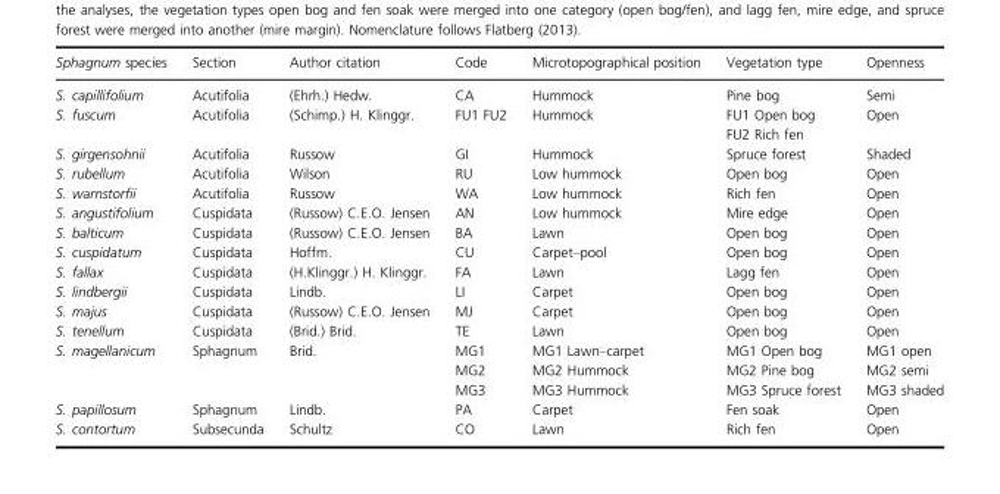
<table><thead><tr><td>Sphagnum species</td><td>Section</td><td>Author citation</td><td>Code</td><td>Microtopographical position</td><td>Vegetation type</td><td>Openness</td></tr></thead><tbody><tr><td>S. capillifolium</td><td>Acutifolia</td><td>(Ehrh.) Hedw.</td><td>CA</td><td>Hummock</td><td>Pine bog</td><td>Semi</td></tr><tr><td rowspan="2">S. fuscum</td><td rowspan="2">Acutifolia</td><td rowspan="2">(Schimp.) H. Klinggr.</td><td rowspan="2">FU1 FU2</td><td rowspan="2">Hummock</td><td>FU1 Open bog</td><td rowspan="2">Open</td></tr><tr><td>FU2 Rich fen</td></tr><tr><td>S. girgensohnii</td><td>Acutifolia</td><td>Russow</td><td>GI</td><td>Hummock</td><td>Spruce forest</td><td>Shaded</td></tr><tr><td>S. rubellum</td><td>Acutifolia</td><td>Wilson</td><td>RU</td><td>Low hummock</td><td>Open bog</td><td>Open</td></tr><tr><td>S. warnstorfii</td><td>Acutifolia</td><td>Russow</td><td>WA</td><td>Low hummock</td><td>Rich fen</td><td>Open</td></tr><tr><td>S. angustifolium</td><td>Cuspidata</td><td>(Russow) C.E.O. Jensen</td><td>AN</td><td>Low hummock</td><td>Mire edge</td><td>Open</td></tr><tr><td>S. balticum</td><td>Cuspidata</td><td>(Russow) C.E.O. Jensen</td><td>BA</td><td>Lawn</td><td>Open bog</td><td>Open</td></tr><tr><td>S. cuspidatum</td><td>Cuspidata</td><td>Hoffm.</td><td>CU</td><td>Carpet–pool</td><td>Open bog</td><td>Open</td></tr><tr><td>S. fallax</td><td>Cuspidata</td><td>(H.Klinggr.) H. Klinggr.</td><td>FA</td><td>Lawn</td><td>Lagg fen</td><td>Open</td></tr><tr><td>S. lindbergii</td><td>Cuspidata</td><td>Lindb.</td><td>LI</td><td>Carpet</td><td>Open bog</td><td>Open</td></tr><tr><td>S. majus</td><td>Cuspidata</td><td>(Russow) C.E.O. Jensen</td><td>MJ</td><td>Carpet</td><td>Open bog</td><td>Open</td></tr><tr><td>S. tenellum</td><td>Cuspidata</td><td>(Brid.) Brid.</td><td>TE</td><td>Lawn</td><td>Open bog</td><td>Open</td></tr><tr><td rowspan="3">S. magellanicum</td><td rowspan="3">Sphagnum</td><td rowspan="3">Brid.</td><td>MG1</td><td>MG1 Lawn–carpet</td><td>MG1 Open bog</td><td>MG1 open</td></tr><tr><td>MG2</td><td>MG2 Hummock</td><td>MG2 Pine bog</td><td>MG2 semi</td></tr><tr><td>MG3</td><td>MG3 Hummock</td><td>MG3 Spruce forest</td><td>MG3 shaded</td></tr><tr><td>S. papillosum</td><td>Sphagnum</td><td>Lindb.</td><td>PA</td><td>Carpet</td><td>Fen soak</td><td>Open</td></tr><tr><td>S. contortum</td><td>Subsecunda</td><td>Schultz</td><td>CO</td><td>Lawn</td><td>Rich fen</td><td>Open</td></tr></tbody></table>